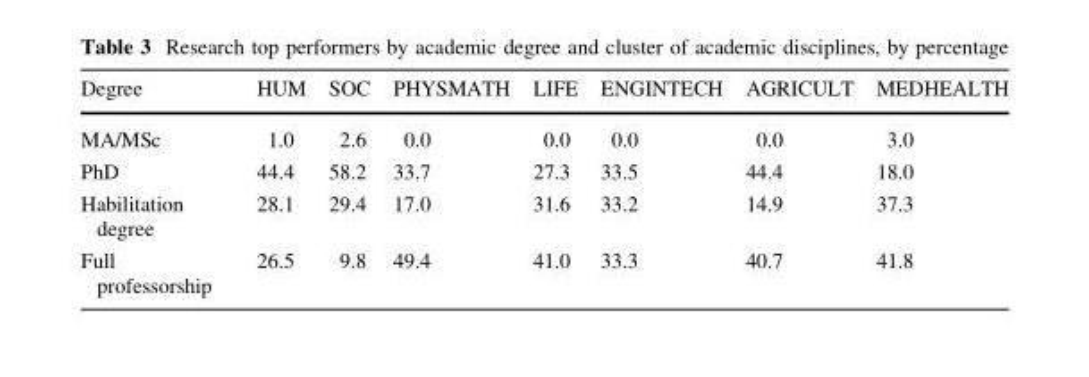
<table><thead><tr><td>Degree</td><td>HUM</td><td>SOC</td><td>PHYSMATH</td><td>LIFE</td><td>ENGINTECH</td><td>AGRICULT</td><td>MEDHEALTH</td></tr></thead><tbody><tr><td>MA/MSc</td><td>1.0</td><td>2.6</td><td>0.0</td><td>0.0</td><td>0.0</td><td>0.0</td><td>3.0</td></tr><tr><td>PhD</td><td>44.4</td><td>58.2</td><td>33.7</td><td>27.3</td><td>33.5</td><td>44.4</td><td>18.0</td></tr><tr><td>Habilitation degree</td><td>28.1</td><td>29.4</td><td>17.0</td><td>31.6</td><td>33.2</td><td>14.9</td><td>37.3</td></tr><tr><td>Full professorship</td><td>26.5</td><td>9.8</td><td>49.4</td><td>41.0</td><td>33.3</td><td>40.7</td><td>41.8</td></tr></tbody></table>